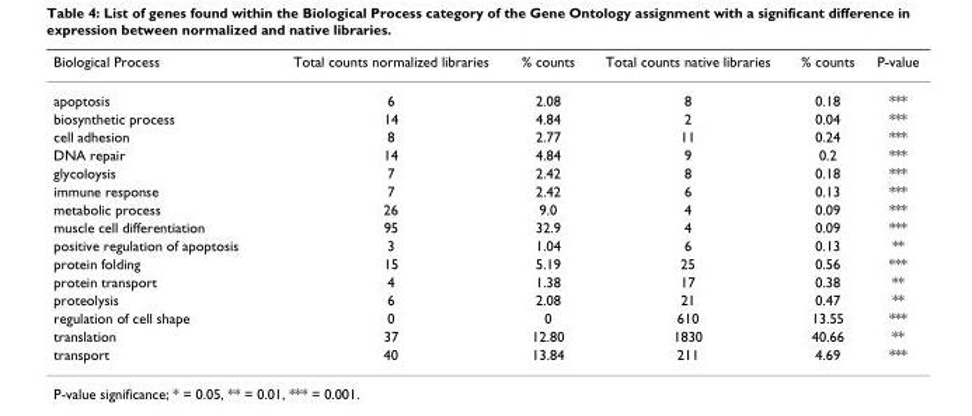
<table><thead><tr><td>Biological Process</td><td>Total counts normalized libraries</td><td>% counts</td><td>Total counts native libraries</td><td>% counts</td><td>P-value</td></tr></thead><tbody><tr><td>apoptosis</td><td>6</td><td>2.08</td><td>8</td><td>0.18</td><td>***</td></tr><tr><td>biosynthetic process</td><td>14</td><td>4.84</td><td>2</td><td>0.04</td><td>***</td></tr><tr><td>cell adhesion</td><td>8</td><td>2.77</td><td>11</td><td>0.24</td><td>***</td></tr><tr><td>DNA repair</td><td>14</td><td>4.84</td><td>9</td><td>0.2</td><td>***</td></tr><tr><td>glycoloysis</td><td>7</td><td>2.42</td><td>8</td><td>0.18</td><td>***</td></tr><tr><td>immune response</td><td>7</td><td>2.42</td><td>6</td><td>0.13</td><td>***</td></tr><tr><td>metabolic process</td><td>26</td><td>9.0</td><td>4</td><td>0.09</td><td>***</td></tr><tr><td>muscle cell differentiation</td><td>95</td><td>32.9</td><td>4</td><td>0.09</td><td>***</td></tr><tr><td>positive regulation of apoptosis</td><td>3</td><td>1.04</td><td>6</td><td>0.13</td><td>**</td></tr><tr><td>protein folding</td><td>15</td><td>5.19</td><td>25</td><td>0.56</td><td>***</td></tr><tr><td>protein transport</td><td>4</td><td>1.38</td><td>17</td><td>0.38</td><td>**</td></tr><tr><td>proteolysis</td><td>6</td><td>2.08</td><td>21</td><td>0.47</td><td>**</td></tr><tr><td>regulation of cell shape</td><td>0</td><td>0</td><td>610</td><td>13.55</td><td>***</td></tr><tr><td>translation</td><td>37</td><td>12.80</td><td>1830</td><td>40.66</td><td>**</td></tr><tr><td>transport</td><td>40</td><td>13.84</td><td>211</td><td>4.69</td><td>***</td></tr></tbody></table>